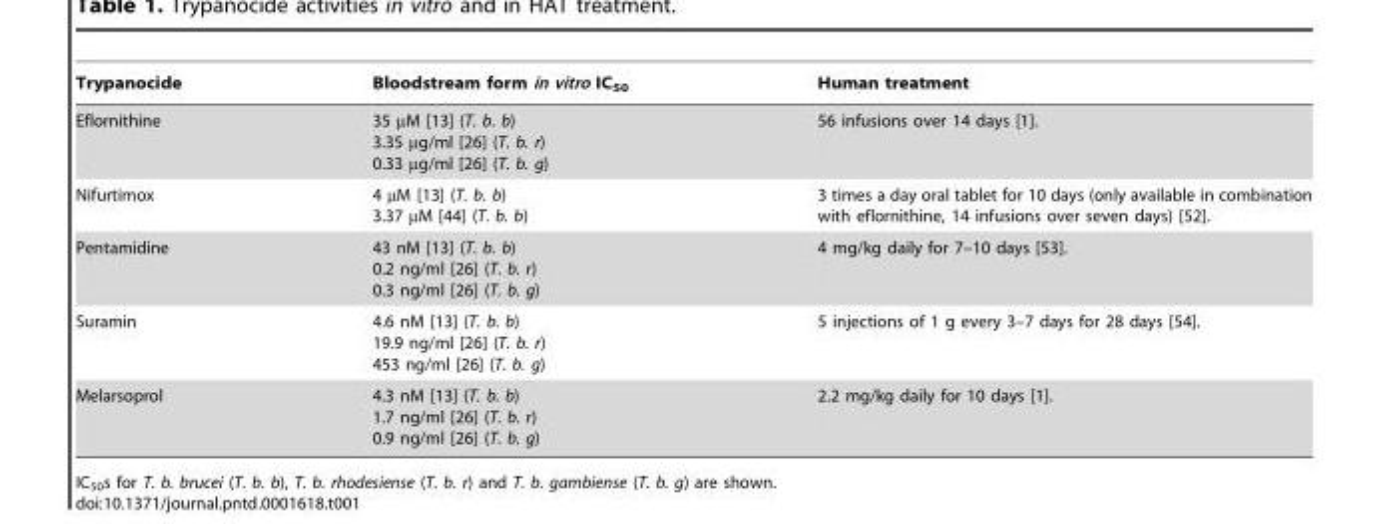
<table><thead><tr><td>Trypanocide</td><td>Bloodstream form in vitro IC<sub>50</sub></td><td>Human treatment</td></tr></thead><tbody><tr><td>Eflornithine</td><td>35 µM [13] (T. b. b) 3.35 µg/ml [26] (T. b. r) 0.33 µg/ml [26] (T. b. g)</td><td>56 infusions over 14 days [1].</td></tr><tr><td>Nifurtimox</td><td>4 µM [13] (T. b. b) 3.37 µM [44] (T. b. b)</td><td>3 times a day oral tablet for 10 days (only available in combination with eflornithine, 14 infusions over seven days) [52].</td></tr><tr><td>Pentamidine</td><td>43 nM [13] (T. b. b) 0.2 ng/ml [26] (T. b. r) 0.3 ng/ml [26] (T. b. g)</td><td>4 mg/kg daily for 7–10 days [53].</td></tr><tr><td>Suramin</td><td>4.6 nM [13] (T. b. b) 19.9 ng/ml [26] (T. b. r) 453 ng/ml [26] (T. b. g)</td><td>5 injections of 1 g every 3–7 days for 28 days [54].</td></tr><tr><td>Melarsoprol</td><td>4.3 nM [13] (T. b. b) 1.7 ng/ml [26] (T. b. r) 0.9 ng/ml [26] (T. b. g)</td><td>2.2 mg/kg daily for 10 days [1].</td></tr></tbody></table>